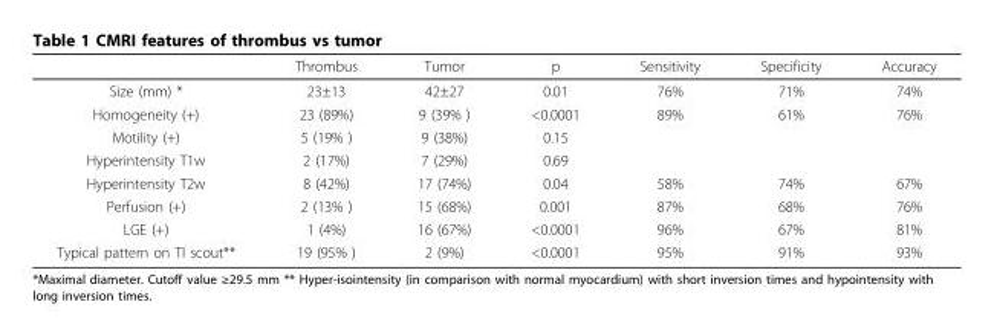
<table><thead><tr><td></td><td>Thrombus</td><td>Tumor</td><td>p</td><td>Sensitivity</td><td>Specificity</td><td>Accuracy</td></tr></thead><tbody><tr><td>Size (mm) *</td><td>23±13</td><td>42±27</td><td>0.01</td><td>76%</td><td>71%</td><td>74%</td></tr><tr><td>Homogeneity (+)</td><td>23 (89%)</td><td>9 (39% )</td><td>&lt;0.0001</td><td>89%</td><td>61%</td><td>76%</td></tr><tr><td>Motility (+)</td><td>5 (19% )</td><td>9 (38%)</td><td>0.15</td><td></td><td></td><td></td></tr><tr><td>Hyperintensity T1w</td><td>2 (17%)</td><td>7 (29%)</td><td>0.69</td><td></td><td></td><td></td></tr><tr><td>Hyperintensity T2w</td><td>8 (42%)</td><td>17 (74%)</td><td>0.04</td><td>58%</td><td>74%</td><td>67%</td></tr><tr><td>Perfusion (+)</td><td>2 (13% )</td><td>15 (68%)</td><td>0.001</td><td>87%</td><td>68%</td><td>76%</td></tr><tr><td>LGE (+)</td><td>1 (4%)</td><td>16 (67%)</td><td>&lt;0.0001</td><td>96%</td><td>67%</td><td>81%</td></tr><tr><td>Typical pattern on TI scout**</td><td>19 (95% )</td><td>2 (9%)</td><td>&lt;0.0001</td><td>95%</td><td>91%</td><td>93%</td></tr></tbody></table>